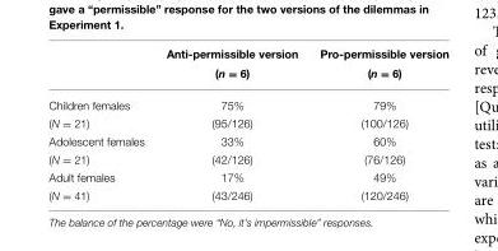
<table><thead><tr><td rowspan="2"></td><td rowspan="2">Anti-permissible version (n = 6)</td><td rowspan="2">Pro-permissible version (n = 6)</td></tr><tr></tr></thead><tbody><tr><td>Children females</td><td>75%</td><td>79%</td></tr><tr><td>(N = 21)</td><td>(95/126)</td><td>(100/126)</td></tr><tr><td>Adolescent females</td><td>33%</td><td>60%</td></tr><tr><td>(N = 21)</td><td>(42/126)</td><td>(76/126)</td></tr><tr><td>Adult females</td><td>17%</td><td>49%</td></tr><tr><td>(N = 41)</td><td>(43/246)</td><td>(120/246)</td></tr></tbody></table>